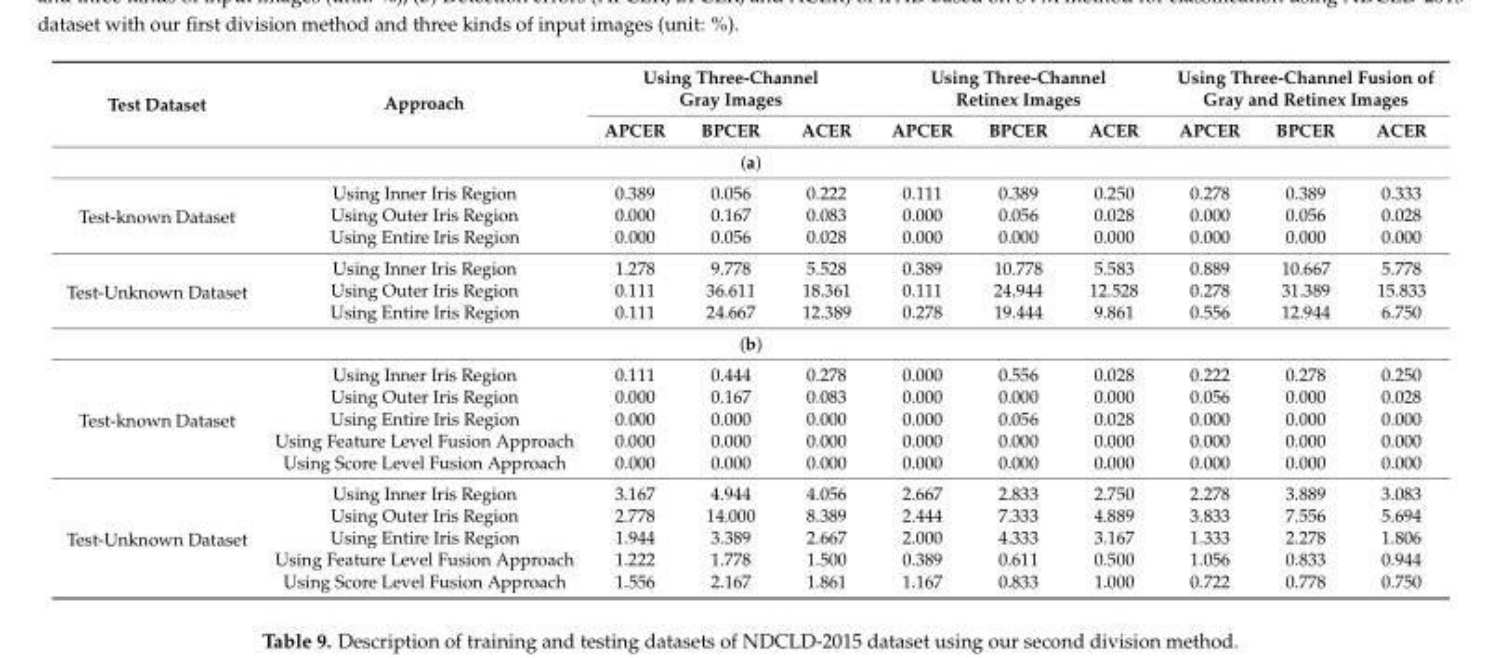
<table><thead><tr><td rowspan="2">Test Dataset</td><td rowspan="2">Approach</td><td colspan="3">Using Three-Channel Gray Images</td><td colspan="3">Using Three-Channel Retinex Images</td><td colspan="3">Using Three-Channel Fusion of Gray and Retinex Images</td></tr><tr><td>APCER</td><td>BPCER</td><td>ACER</td><td>APCER</td><td>BPCER</td><td>ACER</td><td>APCER</td><td>BPCER</td><td>ACER</td></tr></thead><tbody><tr><td colspan="11">(a)</td></tr><tr><td rowspan="3">Test-known Dataset</td><td>Using Inner Iris Region</td><td>0.389</td><td>0.056</td><td>0.222</td><td>0.111</td><td>0.389</td><td>0.250</td><td>0.278</td><td>0.389</td><td>0.333</td></tr><tr><td>Using Outer Iris Region</td><td>0.000</td><td>0.167</td><td>0.083</td><td>0.000</td><td>0.056</td><td>0.028</td><td>0.000</td><td>0.056</td><td>0.028</td></tr><tr><td>Using Entire Iris Region</td><td>0.000</td><td>0.056</td><td>0.028</td><td>0.000</td><td>0.000</td><td>0.000</td><td>0.000</td><td>0.000</td><td>0.000</td></tr><tr><td rowspan="3">Test-Unknown Dataset</td><td>Using Inner Iris Region</td><td>1.278</td><td>9.778</td><td>5.528</td><td>0.389</td><td>10.778</td><td>5.583</td><td>0.889</td><td>10.667</td><td>5.778</td></tr><tr><td>Using Outer Iris Region</td><td>0.111</td><td>36.611</td><td>18.361</td><td>0.111</td><td>24.944</td><td>12.528</td><td>0.278</td><td>31.389</td><td>15.833</td></tr><tr><td>Using Entire Iris Region</td><td>0.111</td><td>24.667</td><td>12.389</td><td>0.278</td><td>19.444</td><td>9.861</td><td>0.556</td><td>12.944</td><td>6.750</td></tr><tr><td colspan="11">(b)</td></tr><tr><td rowspan="5">Test-known Dataset</td><td>Using Inner Iris Region</td><td>0.111</td><td>0.444</td><td>0.278</td><td>0.000</td><td>0.556</td><td>0.028</td><td>0.222</td><td>0.278</td><td>0.250</td></tr><tr><td>Using Outer Iris Region</td><td>0.000</td><td>0.167</td><td>0.083</td><td>0.000</td><td>0.000</td><td>0.000</td><td>0.056</td><td>0.000</td><td>0.028</td></tr><tr><td>Using Entire Iris Region</td><td>0.000</td><td>0.000</td><td>0.000</td><td>0.000</td><td>0.056</td><td>0.028</td><td>0.000</td><td>0.000</td><td>0.000</td></tr><tr><td>Using Feature Level Fusion Approach</td><td>0.000</td><td>0.000</td><td>0.000</td><td>0.000</td><td>0.000</td><td>0.000</td><td>0.000</td><td>0.000</td><td>0.000</td></tr><tr><td>Using Score Level Fusion Approach</td><td>0.000</td><td>0.000</td><td>0.000</td><td>0.000</td><td>0.000</td><td>0.000</td><td>0.000</td><td>0.000</td><td>0.000</td></tr><tr><td rowspan="5">Test-Unknown Dataset</td><td>Using Inner Iris Region</td><td>3.167</td><td>4.944</td><td>4.056</td><td>2.667</td><td>2.833</td><td>2.750</td><td>2.278</td><td>3.889</td><td>3.083</td></tr><tr><td>Using Outer Iris Region</td><td>2.778</td><td>14.000</td><td>8.389</td><td>2.444</td><td>7.333</td><td>4.889</td><td>3.833</td><td>7.556</td><td>5.694</td></tr><tr><td>Using Entire Iris Region</td><td>1.944</td><td>3.389</td><td>2.667</td><td>2.000</td><td>4.333</td><td>3.167</td><td>1.333</td><td>2.278</td><td>1.806</td></tr><tr><td>Using Feature Level Fusion Approach</td><td>1.222</td><td>1.778</td><td>1.500</td><td>0.389</td><td>0.611</td><td>0.500</td><td>1.056</td><td>0.833</td><td>0.944</td></tr><tr><td>Using Score Level Fusion Approach</td><td>1.556</td><td>2.167</td><td>1.861</td><td>1.167</td><td>0.833</td><td>1.000</td><td>0.722</td><td>0.778</td><td>0.750</td></tr></tbody></table>